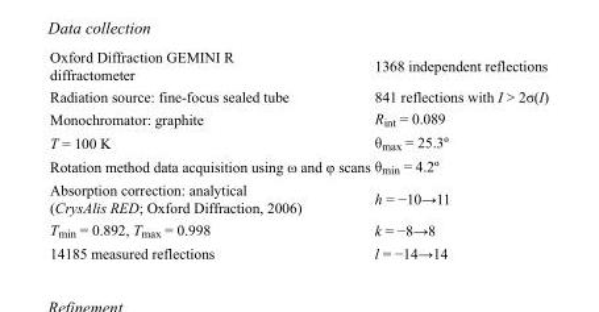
<table><tbody><tr><td>Oxford Diffraction GEMINI R diffractometer</td><td>1368 independent reflections</td></tr><tr><td>Radiation source: fine-focus sealed tube</td><td>841 reflections with I &gt; 2σ(I)</td></tr><tr><td>Monochromator: graphite</td><td>R<sub>int</sub> = 0.089</td></tr><tr><td>T = 100 K</td><td>θ<sub>max</sub> = 25.3º</td></tr><tr><td>Rotation method data acquisition using ω and φ scans</td><td>θ<sub>min</sub> = 4.2º</td></tr><tr><td>Absorption correction: analytical (CrysAlis RED; Oxford Diffraction, 2006)</td><td>h = −10→11</td></tr><tr><td>T<sub>min</sub> = 0.892, T<sub>max</sub> = 0.998</td><td>k = −8→8</td></tr><tr><td>14185 measured reflections</td><td>l = −14→14</td></tr></tbody></table>